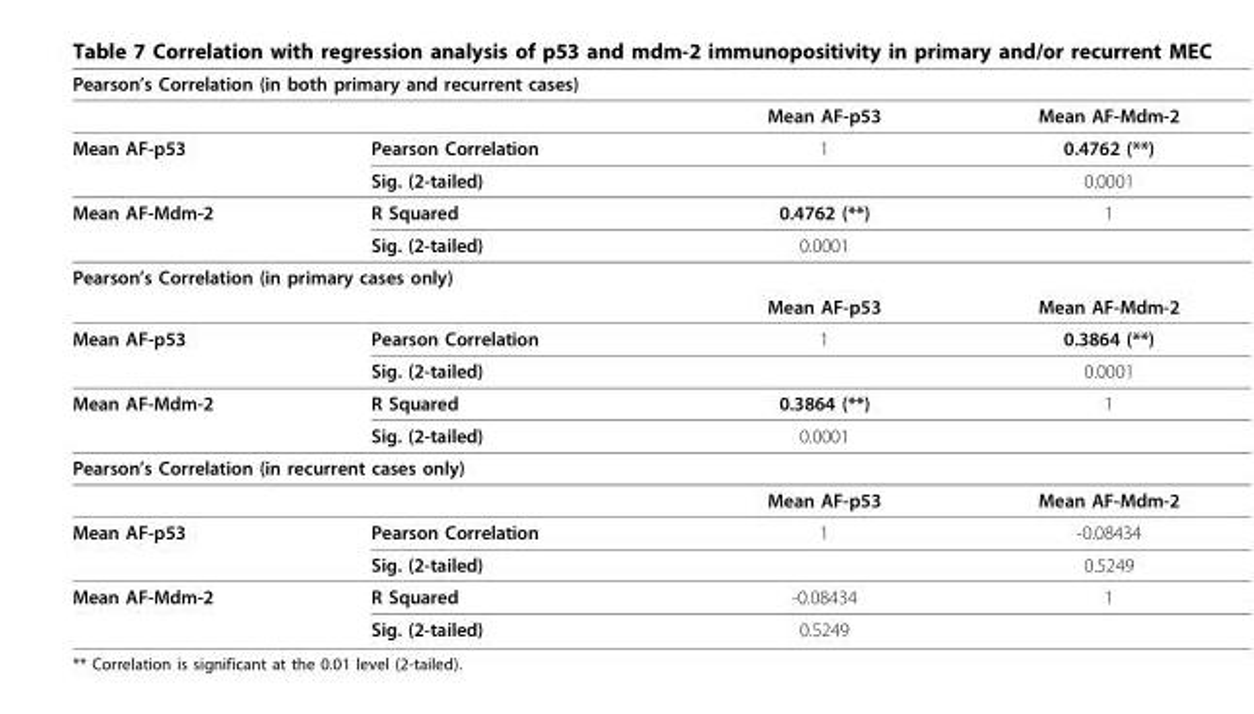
<table><thead><tr><td colspan="4">Pearson’s Correlation (in both primary and recurrent cases)</td></tr><tr><td></td><td></td><td>Mean AF-p53</td><td>Mean AF-Mdm-2</td></tr></thead><tbody><tr><td rowspan="2">Mean AF-p53</td><td>Pearson Correlation</td><td>1</td><td>0.4762 (**)</td></tr><tr><td>Sig. (2-tailed)</td><td></td><td>0.0001</td></tr><tr><td rowspan="2">Mean AF-Mdm-2</td><td>R Squared</td><td>0.4762 (**)</td><td>1</td></tr><tr><td>Sig. (2-tailed)</td><td>0.0001</td><td></td></tr><tr><td colspan="4">Pearson’s Correlation (in primary cases only)</td></tr><tr><td></td><td></td><td>Mean AF-p53</td><td>Mean AF-Mdm-2</td></tr><tr><td rowspan="2">Mean AF-p53</td><td>Pearson Correlation</td><td>1</td><td>0.3864 (**)</td></tr><tr><td>Sig. (2-tailed)</td><td></td><td>0.0001</td></tr><tr><td rowspan="2">Mean AF-Mdm-2</td><td>R Squared</td><td>0.3864 (**)</td><td>1</td></tr><tr><td>Sig. (2-tailed)</td><td>0.0001</td><td></td></tr><tr><td colspan="4">Pearson’s Correlation (in recurrent cases only)</td></tr><tr><td></td><td></td><td>Mean AF-p53</td><td>Mean AF-Mdm-2</td></tr><tr><td rowspan="2">Mean AF-p53</td><td>Pearson Correlation</td><td>1</td><td>-0.08434</td></tr><tr><td>Sig. (2-tailed)</td><td></td><td>0.5249</td></tr><tr><td rowspan="2">Mean AF-Mdm-2</td><td>R Squared</td><td>-0.08434</td><td>1</td></tr><tr><td>Sig. (2-tailed)</td><td>0.5249</td><td></td></tr></tbody></table>